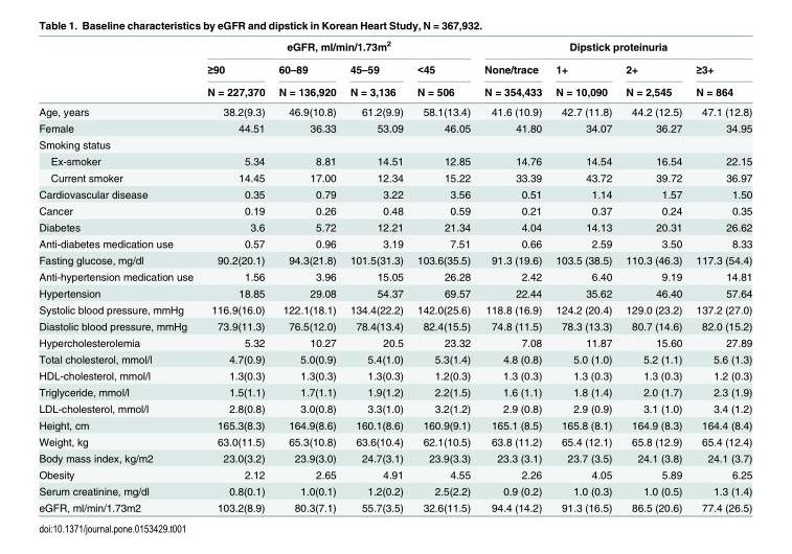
<table><thead><tr><td rowspan="3"></td><td colspan="4">eGFR, ml/min/1.73m<sup>2</sup></td><td colspan="4">Dipstick proteinuria</td></tr><tr><td rowspan="2">≥90 N = 227,370</td><td rowspan="2">60–89 N = 136,920</td><td rowspan="2">45–59 N = 3,136</td><td rowspan="2">&lt;45 N = 506</td><td rowspan="2">None/trace N = 354,433</td><td rowspan="2">1+ N = 10,090</td><td rowspan="2">2+ N = 2,545</td><td rowspan="2">≥3+ N = 864</td></tr><tr></tr></thead><tbody><tr><td>Age, years</td><td>38.2(9.3)</td><td>46.9(10.8)</td><td>61.2(9.9)</td><td>58.1(13.4)</td><td>41.6 (10.9)</td><td>42.7 (11.8)</td><td>44.2 (12.5)</td><td>47.1 (12.8)</td></tr><tr><td>Female</td><td>44.51</td><td>36.33</td><td>53.09</td><td>46.05</td><td>41.80</td><td>34.07</td><td>36.27</td><td>34.95</td></tr><tr><td colspan="9">Smoking status</td></tr><tr><td>Ex-smoker</td><td>5.34</td><td>8.81</td><td>14.51</td><td>12.85</td><td>14.76</td><td>14.54</td><td>16.54</td><td>22.15</td></tr><tr><td>Current smoker</td><td>14.45</td><td>17.00</td><td>12.34</td><td>15.22</td><td>33.39</td><td>43.72</td><td>39.72</td><td>36.97</td></tr><tr><td>Cardiovascular disease</td><td>0.35</td><td>0.79</td><td>3.22</td><td>3.56</td><td>0.51</td><td>1.14</td><td>1.57</td><td>1.50</td></tr><tr><td>Cancer</td><td>0.19</td><td>0.26</td><td>0.48</td><td>0.59</td><td>0.21</td><td>0.37</td><td>0.24</td><td>0.35</td></tr><tr><td>Diabetes</td><td>3.6</td><td>5.72</td><td>12.21</td><td>21.34</td><td>4.04</td><td>14.13</td><td>20.31</td><td>26.62</td></tr><tr><td>Anti-diabetes medication use</td><td>0.57</td><td>0.96</td><td>3.19</td><td>7.51</td><td>0.66</td><td>2.59</td><td>3.50</td><td>8.33</td></tr><tr><td>Fasting glucose, mg/dl</td><td>90.2(20.1)</td><td>94.3(21.8)</td><td>101.5(31.3)</td><td>103.6(35.5)</td><td>91.3 (19.6)</td><td>103.5 (38.5)</td><td>110.3 (46.3)</td><td>117.3 (54.4)</td></tr><tr><td>Anti-hypertension medication use</td><td>1.56</td><td>3.96</td><td>15.05</td><td>26.28</td><td>2.42</td><td>6.40</td><td>9.19</td><td>14.81</td></tr><tr><td>Hypertension</td><td>18.85</td><td>29.08</td><td>54.37</td><td>69.57</td><td>22.44</td><td>35.62</td><td>46.40</td><td>57.64</td></tr><tr><td>Systolic blood pressure, mmHg</td><td>116.9(16.0)</td><td>122.1(18.1)</td><td>134.4(22.2)</td><td>142.0(25.6)</td><td>118.8 (16.9)</td><td>124.2 (20.4)</td><td>129.0 (23.2)</td><td>137.2 (27.0)</td></tr><tr><td>Diastolic blood pressure, mmHg</td><td>73.9(11.3)</td><td>76.5(12.0)</td><td>78.4(13.4)</td><td>82.4(15.5)</td><td>74.8 (11.5)</td><td>78.3 (13.3)</td><td>80.7 (14.6)</td><td>82.0 (15.2)</td></tr><tr><td>Hypercholesterolemia</td><td>5.32</td><td>10.27</td><td>20.5</td><td>23.32</td><td>7.08</td><td>11.87</td><td>15.60</td><td>27.89</td></tr><tr><td>Total cholesterol, mmol/l</td><td>4.7(0.9)</td><td>5.0(0.9)</td><td>5.4(1.0)</td><td>5.3(1.4)</td><td>4.8 (0.8)</td><td>5.0 (1.0)</td><td>5.2 (1.1)</td><td>5.6 (1.3)</td></tr><tr><td>HDL-cholesterol, mmol/l</td><td>1.3(0.3)</td><td>1.3(0.3)</td><td>1.3(0.3)</td><td>1.2(0.3)</td><td>1.3 (0.3)</td><td>1.3 (0.3)</td><td>1.3 (0.3)</td><td>1.2 (0.3)</td></tr><tr><td>Triglyceride, mmol/l</td><td>1.5(1.1)</td><td>1.7(1.1)</td><td>1.9(1.2)</td><td>2.2(1.5)</td><td>1.6 (1.1)</td><td>1.8 (1.4)</td><td>2.0 (1.7)</td><td>2.3 (1.9)</td></tr><tr><td>LDL-cholesterol, mmol/l</td><td>2.8(0.8)</td><td>3.0(0.8)</td><td>3.3(1.0)</td><td>3.2(1.2)</td><td>2.9 (0.8)</td><td>2.9 (0.9)</td><td>3.1 (1.0)</td><td>3.4 (1.2)</td></tr><tr><td>Height, cm</td><td>165.3(8.3)</td><td>164.9(8.6)</td><td>160.1(8.6)</td><td>160.9(9.1)</td><td>165.1 (8.5)</td><td>165.8 (8.1)</td><td>164.9 (8.3)</td><td>164.4 (8.4)</td></tr><tr><td>Weight, kg</td><td>63.0(11.5)</td><td>65.3(10.8)</td><td>63.6(10.4)</td><td>62.1(10.5)</td><td>63.8 (11.2)</td><td>65.4 (12.1)</td><td>65.8 (12.9)</td><td>65.4 (12.4)</td></tr><tr><td>Body mass index, kg/m2</td><td>23.0(3.2)</td><td>23.9(3.0)</td><td>24.7(3.1)</td><td>23.9(3.3)</td><td>23.3 (3.1)</td><td>23.7 (3.5)</td><td>24.1 (3.8)</td><td>24.1 (3.7)</td></tr><tr><td>Obesity</td><td>2.12</td><td>2.65</td><td>4.91</td><td>4.55</td><td>2.26</td><td>4.05</td><td>5.89</td><td>6.25</td></tr><tr><td>Serum creatinine, mg/dl</td><td>0.8(0.1)</td><td>1.0(0.1)</td><td>1.2(0.2)</td><td>2.5(2.2)</td><td>0.9 (0.2)</td><td>1.0 (0.3)</td><td>1.0 (0.5)</td><td>1.3 (1.4)</td></tr><tr><td>eGFR, ml/min/1.73m2</td><td>103.2(8.9)</td><td>80.3(7.1)</td><td>55.7(3.5)</td><td>32.6(11.5)</td><td>94.4 (14.2)</td><td>91.3 (16.5)</td><td>86.5 (20.6)</td><td>77.4 (26.5)</td></tr></tbody></table>